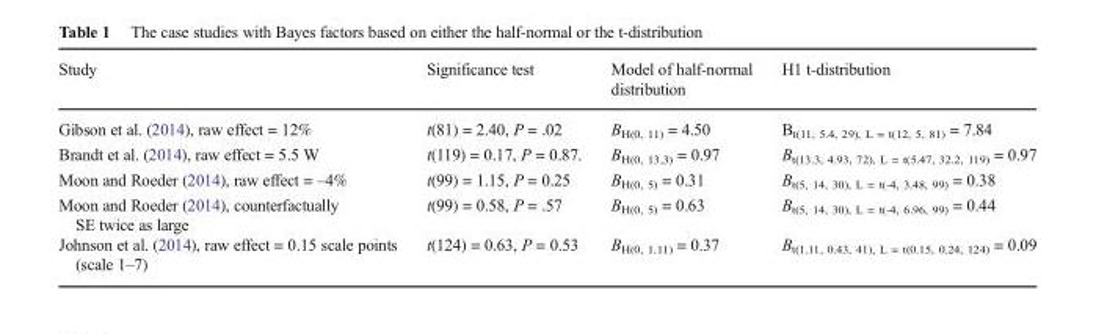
<table><thead><tr><td>Study</td><td>Significance test</td><td>Model of half-normal distribution</td><td>H1 t-distribution</td></tr></thead><tbody><tr><td>Gibson et al. (2014), raw effect = 12%</td><td>t(81) = 2.40, P = .02</td><td>B<sub>H(0, 11)</sub> = 4.50</td><td>B<sub>t(11, 5.4, 29), L = t(12, 5, 81)</sub> = 7.84</td></tr><tr><td>Brandt et al. (2014), raw effect = 5.5 W</td><td>t(119) = 0.17, P = 0.87.</td><td>B<sub>H(0, 13,3)</sub> = 0.97</td><td>B<sub>t(13.3, 4.93, 72), L = t(5.47, 32.2, 119)</sub> = 0.97</td></tr><tr><td>Moon and Roeder (2014), raw effect = –4%</td><td>t(99) = 1.15, P = 0.25</td><td>B<sub>H(0, 5)</sub> = 0.31</td><td>B<sub>t(5, 14, 30), L = t(-4, 3.48, 99)</sub> = 0.38</td></tr><tr><td>Moon and Roeder (2014), counterfactually SE twice as large</td><td>t(99) = 0.58, P = .57</td><td>B<sub>H(0, 5)</sub> = 0.63</td><td>B<sub>t(5, 14, 30), L = t(-4, 6.96, 99)</sub> = 0.44</td></tr><tr><td>Johnson et al. (2014), raw effect = 0.15 scale points (scale 1–7)</td><td>t(124) = 0.63, P = 0.53</td><td>B<sub>H(0, 1.11)</sub> = 0.37</td><td>B<sub>t(1.11, 0.43, 41), L = t(0.15, 0.24, 124)</sub> = 0.09</td></tr></tbody></table>